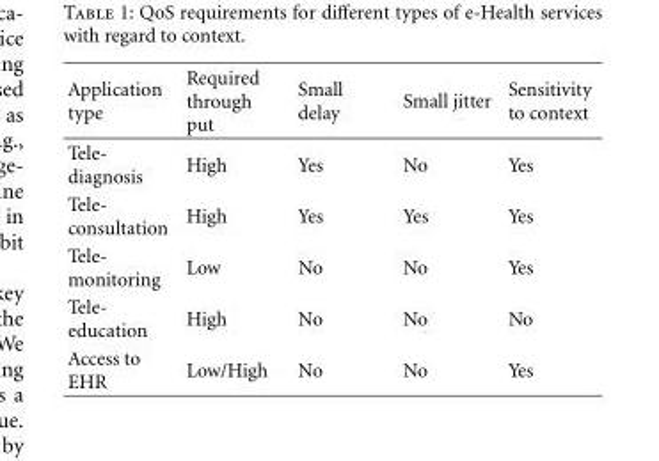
<table><thead><tr><td>Application type</td><td>Required through put</td><td>Small delay</td><td>Small jitter</td><td>Sensitivity to context</td></tr></thead><tbody><tr><td>Tele- diagnosis</td><td>High</td><td>Yes</td><td>No</td><td>Yes</td></tr><tr><td>Tele- consultation</td><td>High</td><td>Yes</td><td>Yes</td><td>Yes</td></tr><tr><td>Tele- monitoring</td><td>Low</td><td>No</td><td>No</td><td>Yes</td></tr><tr><td>Tele- education</td><td>High</td><td>No</td><td>No</td><td>No</td></tr><tr><td>Access to EHR</td><td>Low/High</td><td>No</td><td>No</td><td>Yes</td></tr></tbody></table>